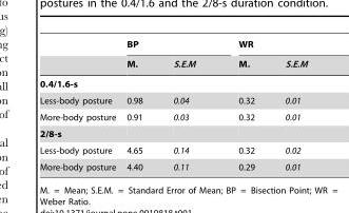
<table><thead><tr><td rowspan="2"></td><td colspan="2">BP</td><td colspan="2">WR</td></tr><tr><td>M.</td><td>S.E.M</td><td>M.</td><td>S.E.M</td></tr></thead><tbody><tr><td colspan="5">0.4/1.6-s</td></tr><tr><td>Less-body posture</td><td>0.98</td><td>0.04</td><td>0.32</td><td>0.01</td></tr><tr><td>More-body posture</td><td>0.91</td><td>0.03</td><td>0.32</td><td>0.01</td></tr><tr><td colspan="5">2/8-s</td></tr><tr><td>Less-body posture</td><td>4.65</td><td>0.14</td><td>0.32</td><td>0.02</td></tr><tr><td>More-body posture</td><td>4.40</td><td>0.11</td><td>0.29</td><td>0.01</td></tr></tbody></table>